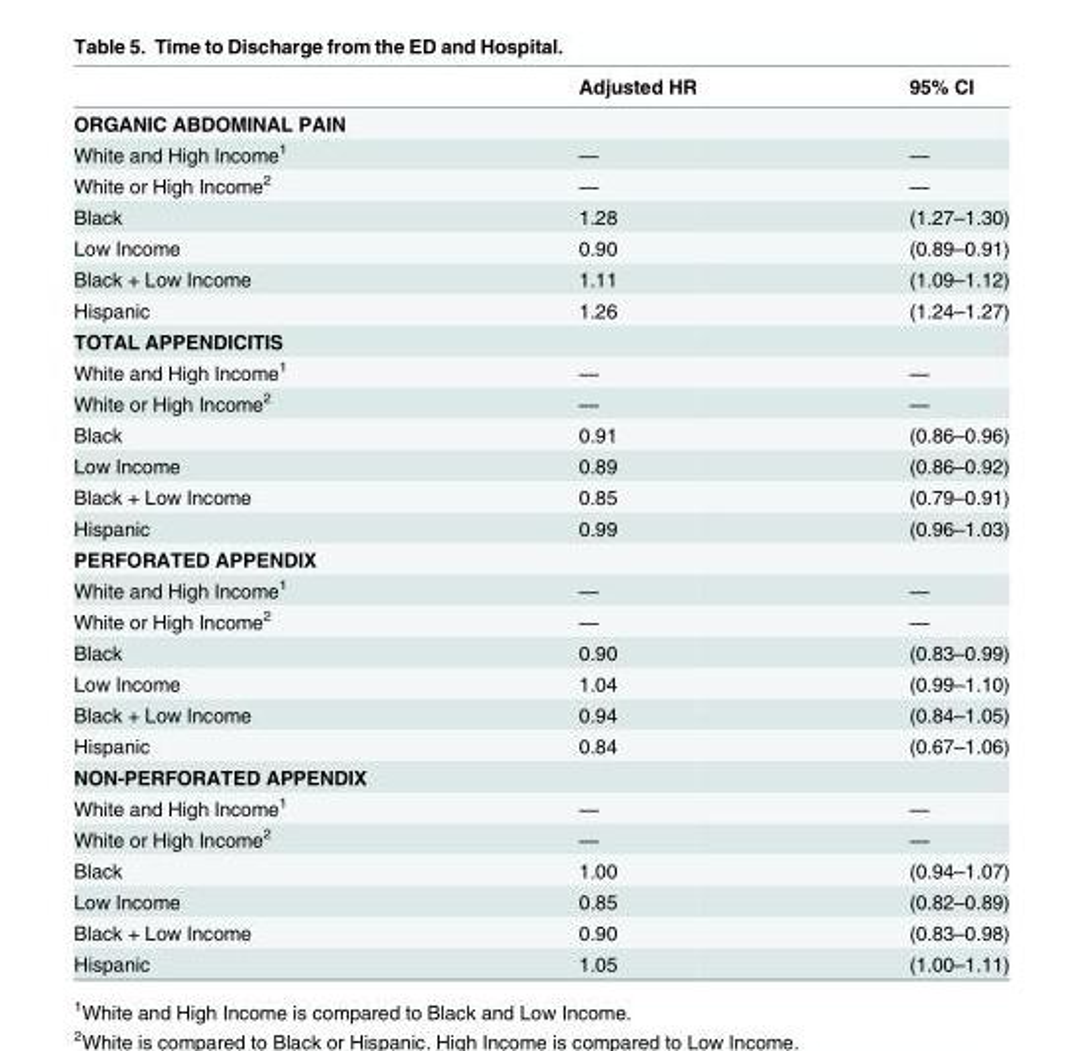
<table><thead><tr><td></td><td>Adjusted HR</td><td>95% CI</td></tr></thead><tbody><tr><td colspan="3">ORGANIC ABDOMINAL PAIN</td></tr><tr><td>White and High Income<sup>1</sup></td><td>—</td><td>—</td></tr><tr><td>White or High Income<sup>2</sup></td><td>—</td><td>—</td></tr><tr><td>Black</td><td>1.28</td><td>(1.27–1.30)</td></tr><tr><td>Low Income</td><td>0.90</td><td>(0.89–0.91)</td></tr><tr><td>Black + Low Income</td><td>1.11</td><td>(1.09–1.12)</td></tr><tr><td>Hispanic</td><td>1.26</td><td>(1.24–1.27)</td></tr><tr><td colspan="3">TOTAL APPENDICITIS</td></tr><tr><td>White and High Income<sup>1</sup></td><td>—</td><td>—</td></tr><tr><td>White or High Income<sup>2</sup></td><td>—</td><td>—</td></tr><tr><td>Black</td><td>0.91</td><td>(0.86–0.96)</td></tr><tr><td>Low Income</td><td>0.89</td><td>(0.86–0.92)</td></tr><tr><td>Black + Low Income</td><td>0.85</td><td>(0.79–0.91)</td></tr><tr><td>Hispanic</td><td>0.99</td><td>(0.96–1.03)</td></tr><tr><td colspan="3">PERFORATED APPENDIX</td></tr><tr><td>White and High Income<sup>1</sup></td><td>—</td><td>—</td></tr><tr><td>White or High Income<sup>2</sup></td><td>—</td><td>—</td></tr><tr><td>Black</td><td>0.90</td><td>(0.83–0.99)</td></tr><tr><td>Low Income</td><td>1.04</td><td>(0.99–1.10)</td></tr><tr><td>Black + Low Income</td><td>0.94</td><td>(0.84–1.05)</td></tr><tr><td>Hispanic</td><td>0.84</td><td>(0.67–1.06)</td></tr><tr><td colspan="3">NON-PERFORATED APPENDIX</td></tr><tr><td>White and High Income<sup>1</sup></td><td>—</td><td>—</td></tr><tr><td>White or High Income<sup>2</sup></td><td>—</td><td>—</td></tr><tr><td>Black</td><td>1.00</td><td>(0.94–1.07)</td></tr><tr><td>Low Income</td><td>0.85</td><td>(0.82–0.89)</td></tr><tr><td>Black + Low Income</td><td>0.90</td><td>(0.83–0.98)</td></tr><tr><td>Hispanic</td><td>1.05</td><td>(1.00–1.11)</td></tr></tbody></table>